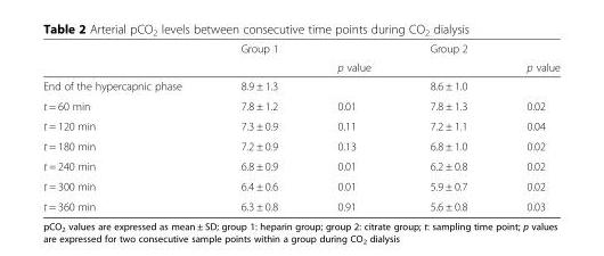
<table><thead><tr><td rowspan="2"></td><td rowspan="2">Group 1</td><td rowspan="2">p value</td><td rowspan="2">Group 2</td><td rowspan="2">p value</td></tr><tr></tr></thead><tbody><tr><td>End of the hypercapnic phase</td><td>8.9 ± 1.3</td><td></td><td>8.6 ± 1.0</td><td></td></tr><tr><td>t = 60 min</td><td>7.8 ± 1.2</td><td>0.01</td><td>7.8 ± 1.3</td><td>0.02</td></tr><tr><td>t = 120 min</td><td>7.3 ± 0.9</td><td>0.11</td><td>7.2 ± 1.1</td><td>0.04</td></tr><tr><td>t = 180 min</td><td>7.2 ± 0.9</td><td>0.13</td><td>6.8 ± 1.0</td><td>0.02</td></tr><tr><td>t = 240 min</td><td>6.8 ± 0.9</td><td>0.01</td><td>6.2 ± 0.8</td><td>0.02</td></tr><tr><td>t = 300 min</td><td>6.4 ± 0.6</td><td>0.01</td><td>5.9 ± 0.7</td><td>0.02</td></tr><tr><td>t = 360 min</td><td>6.3 ± 0.8</td><td>0.91</td><td>5.6 ± 0.8</td><td>0.03</td></tr></tbody></table>